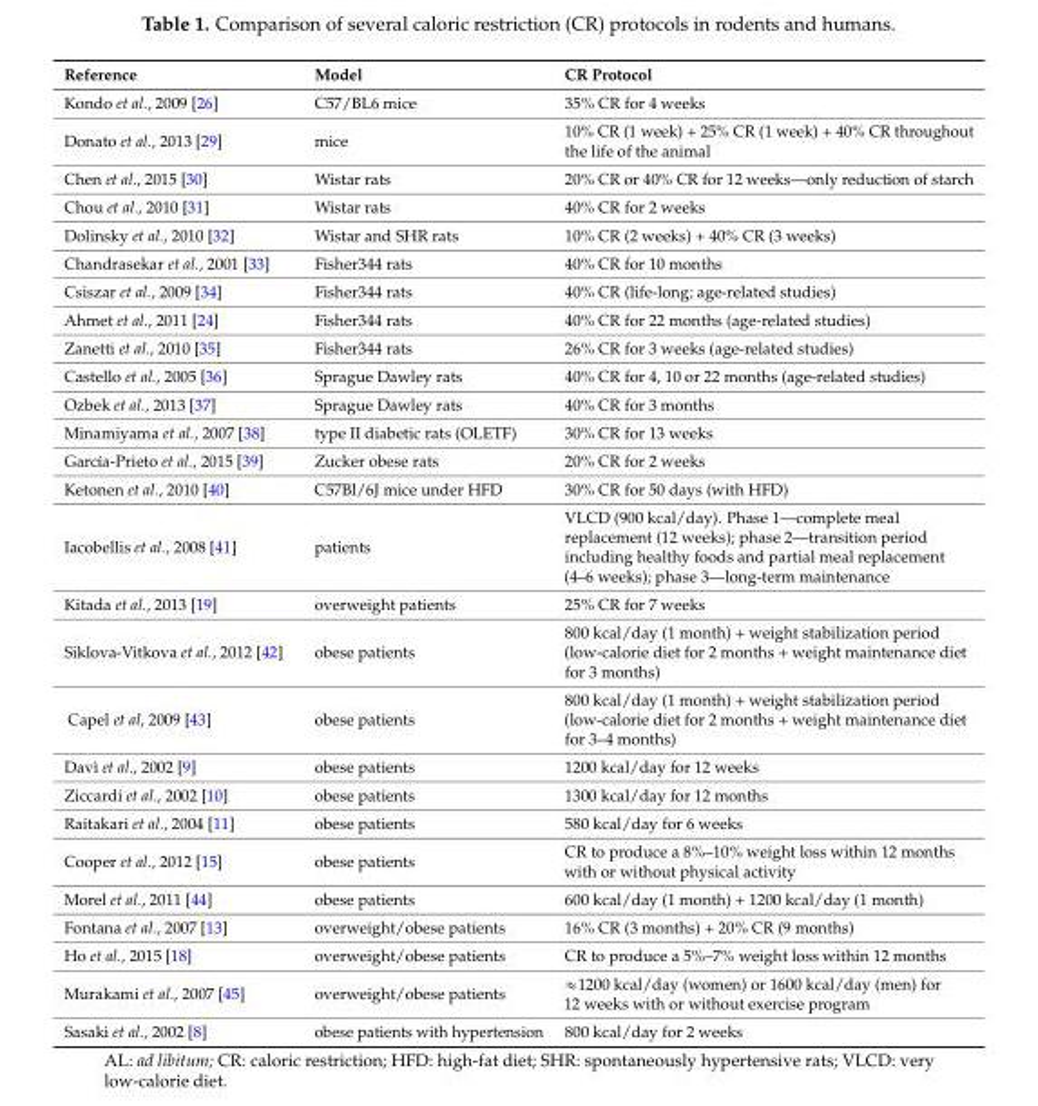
<table><thead><tr><td>Reference</td><td>Model</td><td>CR Protocol</td></tr></thead><tbody><tr><td>Kondo et al., 2009 [26]</td><td>C57/BL6 mice</td><td>35% CR for 4 weeks</td></tr><tr><td>Donato et al., 2013 [29]</td><td>mice</td><td>10% CR (1 week) + 25% CR (1 week) + 40% CR throughout the life of the animal</td></tr><tr><td>Chen et al., 2015 [30]</td><td>Wistar rats</td><td>20% CR or 40% CR for 12 weeks—only reduction of starch</td></tr><tr><td>Chou et al., 2010 [31]</td><td>Wistar rats</td><td>40% CR for 2 weeks</td></tr><tr><td>Dolinsky et al., 2010 [32]</td><td>Wistar and SHR rats</td><td>10% CR (2 weeks) + 40% CR (3 weeks)</td></tr><tr><td>Chandrasekar et al., 2001 [33]</td><td>Fisher344 rats</td><td>40% CR for 10 months</td></tr><tr><td>Csiszar et al., 2009 [34]</td><td>Fisher344 rats</td><td>40% CR (life-long; age-related studies)</td></tr><tr><td>Ahmet et al., 2011 [24]</td><td>Fisher344 rats</td><td>40% CR for 22 months (age-related studies)</td></tr><tr><td>Zanetti et al., 2010 [35]</td><td>Fisher344 rats</td><td>26% CR for 3 weeks (age-related studies)</td></tr><tr><td>Castello et al., 2005 [36]</td><td>Sprague Dawley rats</td><td>40% CR for 4, 10 or 22 months (age-related studies)</td></tr><tr><td>Ozbek et al., 2013 [37]</td><td>Sprague Dawley rats</td><td>40% CR for 3 months</td></tr><tr><td>Minamiyama et al., 2007 [38]</td><td>type II diabetic rats (OLETF)</td><td>30% CR for 13 weeks</td></tr><tr><td>García-Prieto et al., 2015 [39]</td><td>Zucker obese rats</td><td>20% CR for 2 weeks</td></tr><tr><td>Ketonen et al., 2010 [40]</td><td>C57Bl/6J mice under HFD</td><td>30% CR for 50 days (with HFD)</td></tr><tr><td>Iacobellis et al., 2008 [41]</td><td>patients</td><td>VLCD (900 kcal/day). Phase 1—complete meal replacement (12 weeks); phase 2—transition period including healthy foods and partial meal replacement (4–6 weeks); phase 3—long-term maintenance</td></tr><tr><td>Kitada et al., 2013 [19]</td><td>overweight patients</td><td>25% CR for 7 weeks</td></tr><tr><td>Siklova-Vitkova et al., 2012 [42]</td><td>obese patients</td><td>800 kcal/day (1 month) + weight stabilization period (low-calorie diet for 2 months + weight maintenance diet for 3 months)</td></tr><tr><td>Capel et al, 2009 [43]</td><td>obese patients</td><td>800 kcal/day (1 month) + weight stabilization period (low-calorie diet for 2 months + weight maintenance diet for 3–4 months)</td></tr><tr><td>Davì et al., 2002 [9]</td><td>obese patients</td><td>1200 kcal/day for 12 weeks</td></tr><tr><td>Ziccardi et al., 2002 [10]</td><td>obese patients</td><td>1300 kcal/day for 12 months</td></tr><tr><td>Raitakari et al., 2004 [11]</td><td>obese patients</td><td>580 kcal/day for 6 weeks</td></tr><tr><td>Cooper et al., 2012 [15]</td><td>obese patients</td><td>CR to produce a 8%–10% weight loss within 12 months with or without physical activity</td></tr><tr><td>Morel et al., 2011 [44]</td><td>obese patients</td><td>600 kcal/day (1 month) + 1200 kcal/day (1 month)</td></tr><tr><td>Fontana et al., 2007 [13]</td><td>overweight/obese patients</td><td>16% CR (3 months) + 20% CR (9 months)</td></tr><tr><td>Ho et al., 2015 [18]</td><td>overweight/obese patients</td><td>CR to produce a 5%–7% weight loss within 12 months</td></tr><tr><td>Murakami et al., 2007 [45]</td><td>overweight/obese patients</td><td>≈1200 kcal/day (women) or 1600 kcal/day (men) for 12 weeks with or without exercise program</td></tr><tr><td>Sasaki et al., 2002 [8]</td><td>obese patients with hypertension</td><td>800 kcal/day for 2 weeks</td></tr></tbody></table>